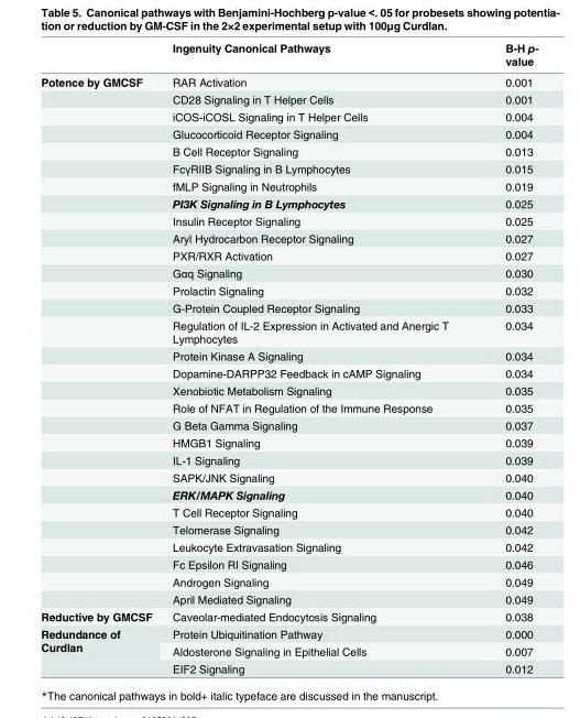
<table><thead><tr><td></td><td>Ingenuity Canonical Pathways</td><td>B-H p- value</td></tr></thead><tbody><tr><td rowspan="30">Potence by GMCSF</td><td>RAR Activation</td><td>0.001</td></tr><tr><td>CD28 Signaling in T Helper Cells</td><td>0.001</td></tr><tr><td>iCOS-iCOSL Signaling in T Helper Cells</td><td>0.004</td></tr><tr><td>Glucocorticoid Receptor Signaling</td><td>0.004</td></tr><tr><td>B Cell Receptor Signaling</td><td>0.013</td></tr><tr><td>FcγRIIB Signaling in B Lymphocytes</td><td>0.015</td></tr><tr><td>fMLP Signaling in Neutrophils</td><td>0.019</td></tr><tr><td>PI3K Signaling in B Lymphocytes</td><td>0.025</td></tr><tr><td>Insulin Receptor Signaling</td><td>0.025</td></tr><tr><td>Aryl Hydrocarbon Receptor Signaling</td><td>0.027</td></tr><tr><td>PXR/RXR Activation</td><td>0.027</td></tr><tr><td>Gαq Signaling</td><td>0.030</td></tr><tr><td>Prolactin Signaling</td><td>0.032</td></tr><tr><td>G-Protein Coupled Receptor Signaling</td><td>0.033</td></tr><tr><td>Regulation of IL-2 Expression in Activated and Anergic T Lymphocytes</td><td>0.034</td></tr><tr><td>Protein Kinase A Signaling</td><td>0.034</td></tr><tr><td>Dopamine-DARPP32 Feedback in cAMP Signaling</td><td>0.034</td></tr><tr><td>Xenobiotic Metabolism Signaling</td><td>0.035</td></tr><tr><td>Role of NFAT in Regulation of the Immune Response</td><td>0.035</td></tr><tr><td>G Beta Gamma Signaling</td><td>0.037</td></tr><tr><td>HMGB1 Signaling</td><td>0.039</td></tr><tr><td>IL-1 Signaling</td><td>0.039</td></tr><tr><td>SAPK/JNK Signaling</td><td>0.040</td></tr><tr><td>ERK/MAPK Signaling</td><td>0.040</td></tr><tr><td>T Cell Receptor Signaling</td><td>0.040</td></tr><tr><td>Telomerase Signaling</td><td>0.042</td></tr><tr><td>Leukocyte Extravasation Signaling</td><td>0.042</td></tr><tr><td>Fc Epsilon RI Signaling</td><td>0.046</td></tr><tr><td>Androgen Signaling</td><td>0.049</td></tr><tr><td>April Mediated Signaling</td><td>0.049</td></tr><tr><td>Reductive by GMCSF</td><td>Caveolar-mediated Endocytosis Signaling</td><td>0.038</td></tr><tr><td rowspan="3">Redundance of Curdlan</td><td>Protein Ubiquitination Pathway</td><td>0.000</td></tr><tr><td>Aldosterone Signaling in Epithelial Cells</td><td>0.007</td></tr><tr><td>EIF2 Signaling</td><td>0.012</td></tr></tbody></table>